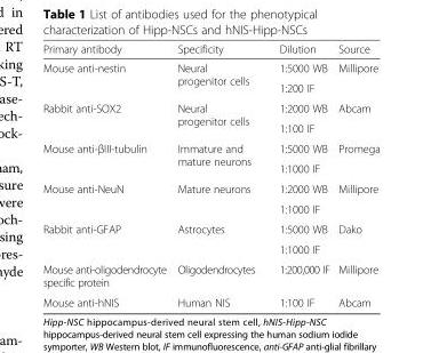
<table><thead><tr><td>Primary antibody</td><td>Specificity</td><td>Dilution</td><td>Source</td></tr></thead><tbody><tr><td rowspan="2">Mouse anti-nestin</td><td rowspan="2">Neural progenitor cells</td><td>1:5000 WB</td><td rowspan="2">Millipore</td></tr><tr><td>1:200 IF</td></tr><tr><td rowspan="2">Rabbit anti-SOX2</td><td rowspan="2">Neural progenitor cells</td><td>1:2000 WB</td><td rowspan="2">Abcam</td></tr><tr><td>1:100 IF</td></tr><tr><td rowspan="2">Mouse anti-βIII-tubulin</td><td rowspan="2">Immature and mature neurons</td><td>1:5000 WB</td><td rowspan="2">Promega</td></tr><tr><td>1:1000 IF</td></tr><tr><td rowspan="2">Mouse anti-NeuN</td><td rowspan="2">Mature neurons</td><td>1:2000 WB</td><td rowspan="2">Millipore</td></tr><tr><td>1:1000 IF</td></tr><tr><td rowspan="2">Rabbit anti-GFAP</td><td rowspan="2">Astrocytes</td><td>1:5000 WB</td><td rowspan="2">Dako</td></tr><tr><td>1:1000 IF</td></tr><tr><td>Mouse anti-oligodendrocyte specific protein</td><td>Oligodendrocytes</td><td>1:200,000 IF</td><td>Millipore</td></tr><tr><td>Mouse anti-hNIS</td><td>Human NIS</td><td>1:100 IF</td><td>Abcam</td></tr></tbody></table>